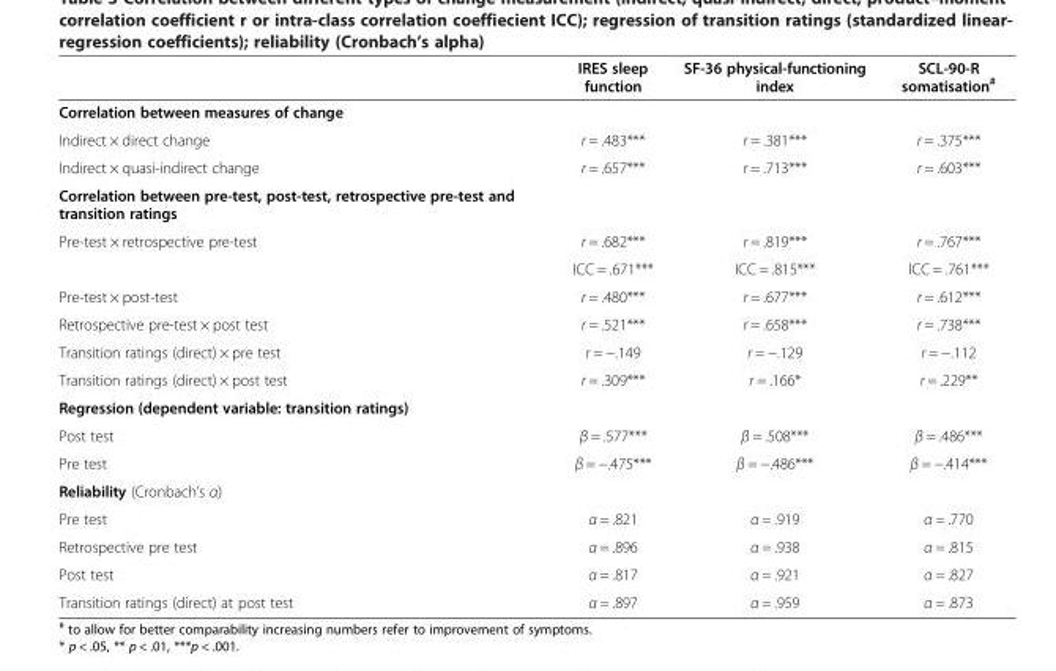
<table><thead><tr><td></td><td>IRES sleep function</td><td>SF-36 physical-functioning index</td><td>SCL-90-R somatisation<sup>#</sup></td></tr></thead><tbody><tr><td colspan="4">Correlation between measures of change</td></tr><tr><td>Indirect × direct change</td><td>r = .483***</td><td>r = .381***</td><td>r = .375***</td></tr><tr><td>Indirect × quasi-indirect change</td><td>r = .657***</td><td>r = .713***</td><td>r = .603***</td></tr><tr><td colspan="4">Correlation between pre-test, post-test, retrospective pre-test and transition ratings</td></tr><tr><td rowspan="2">Pre-test × retrospective pre-test</td><td>r = .682***</td><td>r = .819***</td><td>r = .767***</td></tr><tr><td>ICC = .671***</td><td>ICC = .815***</td><td>ICC = .761***</td></tr><tr><td>Pre-test × post-test</td><td>r = .480***</td><td>r = .677***</td><td>r = .612***</td></tr><tr><td>Retrospective pre-test × post test</td><td>r = .521***</td><td>r = .658***</td><td>r = .738***</td></tr><tr><td>Transition ratings (direct) × pre test</td><td>r = −.149</td><td>r = −.129</td><td>r = −.112</td></tr><tr><td>Transition ratings (direct) × post test</td><td>r = .309***</td><td>r = .166*</td><td>r = .229**</td></tr><tr><td colspan="4">Regression (dependent variable: transition ratings)</td></tr><tr><td>Post test</td><td>β = .577***</td><td>β = .508***</td><td>β = .486***</td></tr><tr><td>Pre test</td><td>β = −.475***</td><td>β = −.486***</td><td>β = −.414***</td></tr><tr><td colspan="4">Reliability (Cronbach’s α)</td></tr><tr><td>Pre test</td><td>α = .821</td><td>α = .919</td><td>α = .770</td></tr><tr><td>Retrospective pre test</td><td>α = .896</td><td>α = .938</td><td>α = .815</td></tr><tr><td>Post test</td><td>α = .817</td><td>α = .921</td><td>α = .827</td></tr><tr><td>Transition ratings (direct) at post test</td><td>α = .897</td><td>α = .959</td><td>α = .873</td></tr></tbody></table>